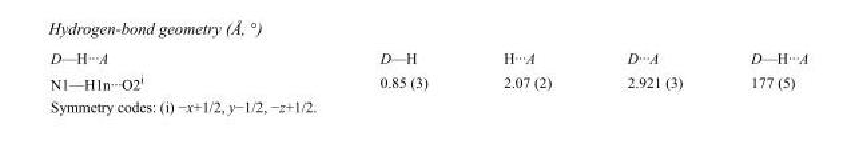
<table><tbody><tr><td>D—H···A</td><td>D—H</td><td>H···A</td><td>D···A</td><td>D—H···A</td></tr><tr><td>N1—H1n···O2<sup>i</sup></td><td>0.85 (3)</td><td>2.07 (2)</td><td>2.921 (3)</td><td>177 (5)</td></tr></tbody></table>